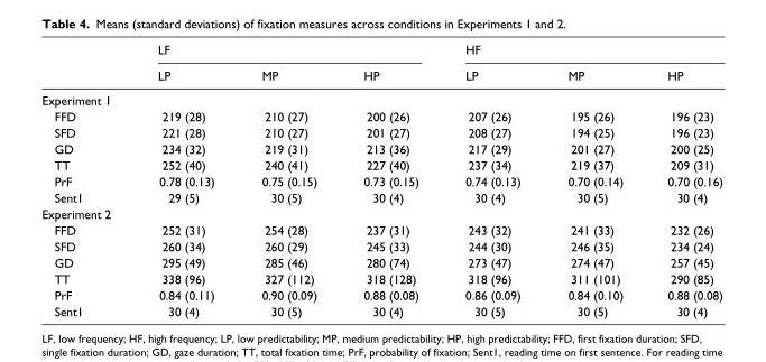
<table><thead><tr><td rowspan="2"></td><td colspan="3">LF</td><td colspan="3">HF</td></tr><tr><td>LP</td><td>MP</td><td>HP</td><td>LP</td><td>MP</td><td>HP</td></tr></thead><tbody><tr><td colspan="7">Experiment 1</td></tr><tr><td>FFD</td><td>219 (28)</td><td>210 (27)</td><td>200 (26)</td><td>207 (26)</td><td>195 (26)</td><td>196 (23)</td></tr><tr><td>SFD</td><td>221 (28)</td><td>210 (27)</td><td>201 (27)</td><td>208 (27)</td><td>194 (25)</td><td>196 (23)</td></tr><tr><td>GD</td><td>234 (32)</td><td>219 (31)</td><td>213 (36)</td><td>217 (29)</td><td>201 (27)</td><td>200 (25)</td></tr><tr><td>TT</td><td>252 (40)</td><td>240 (41)</td><td>227 (40)</td><td>237 (34)</td><td>219 (37)</td><td>209 (31)</td></tr><tr><td>PrF</td><td>0.78 (0.13)</td><td>0.75 (0.15)</td><td>0.73 (0.15)</td><td>0.74 (0.13)</td><td>0.70 (0.14)</td><td>0.70 (0.16)</td></tr><tr><td>Sent1</td><td>29 (5)</td><td>30 (5)</td><td>30 (4)</td><td>30 (4)</td><td>30 (5)</td><td>30 (4)</td></tr><tr><td colspan="7">Experiment 2</td></tr><tr><td>FFD</td><td>252 (31)</td><td>254 (28)</td><td>237 (31)</td><td>243 (32)</td><td>241 (33)</td><td>232 (26)</td></tr><tr><td>SFD</td><td>260 (34)</td><td>260 (29)</td><td>245 (33)</td><td>244 (30)</td><td>246 (35)</td><td>234 (24)</td></tr><tr><td>GD</td><td>295 (49)</td><td>285 (46)</td><td>280 (74)</td><td>273 (47)</td><td>274 (47)</td><td>257 (45)</td></tr><tr><td>TT</td><td>338 (96)</td><td>327 (112)</td><td>318 (128)</td><td>318 (96)</td><td>311 (101)</td><td>290 (85)</td></tr><tr><td>PrF</td><td>0.84 (0.11)</td><td>0.90 (0.09)</td><td>0.88 (0.08)</td><td>0.86 (0.09)</td><td>0.84 (0.10)</td><td>0.88 (0.08)</td></tr><tr><td>Sent1</td><td>30 (4)</td><td>30 (5)</td><td>30 (4)</td><td>30 (5)</td><td>30 (5)</td><td>30 (4)</td></tr></tbody></table>